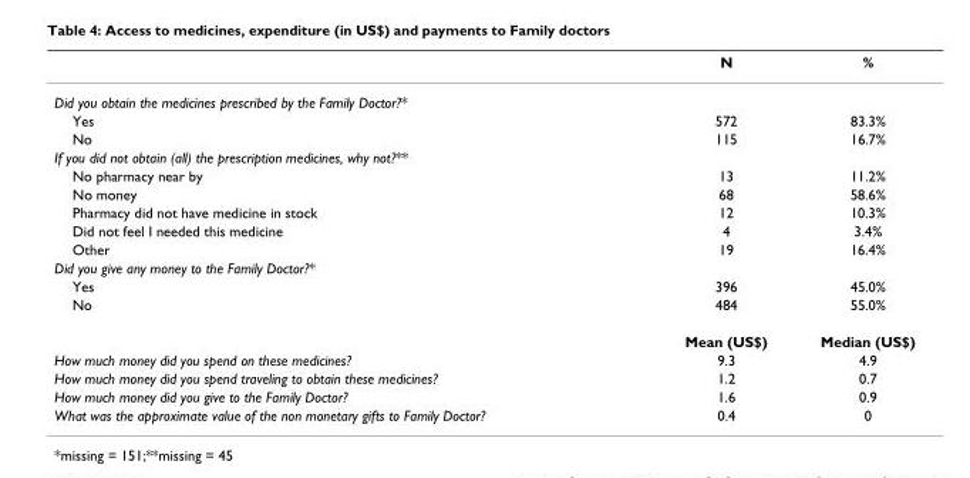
<table><thead><tr><td></td><td>N</td><td>%</td></tr></thead><tbody><tr><td colspan="3">Did you obtain the medicines prescribed by the Family Doctor?*</td></tr><tr><td>Yes</td><td>572</td><td>83.3%</td></tr><tr><td>No</td><td>115</td><td>16.7%</td></tr><tr><td colspan="3">If you did not obtain (all) the prescription medicines, why not?**</td></tr><tr><td>No pharmacy near by</td><td>13</td><td>11.2%</td></tr><tr><td>No money</td><td>68</td><td>58.6%</td></tr><tr><td>Pharmacy did not have medicine in stock</td><td>12</td><td>10.3%</td></tr><tr><td>Did not feel I needed this medicine</td><td>4</td><td>3.4%</td></tr><tr><td>Other</td><td>19</td><td>16.4%</td></tr><tr><td colspan="3">Did you give any money to the Family Doctor?*</td></tr><tr><td>Yes</td><td>396</td><td>45.0%</td></tr><tr><td rowspan="2">No</td><td>484</td><td>55.0%</td></tr><tr><td>Mean (US$)</td><td>Median (US$)</td></tr><tr><td>How much money did you spend on these medicines?</td><td>9.3</td><td>4.9</td></tr><tr><td>How much money did you spend traveling to obtain these medicines?</td><td>1.2</td><td>0.7</td></tr><tr><td>How much money did you give to the Family Doctor?</td><td>1.6</td><td>0.9</td></tr><tr><td>What was the approximate value of the non monetary gifts to Family Doctor?</td><td>0.4</td><td>0</td></tr></tbody></table>